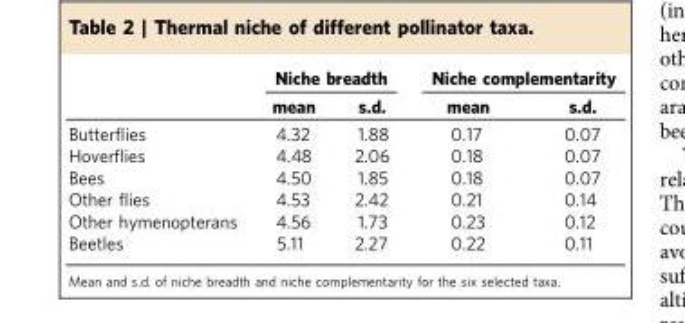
<table><thead><tr><td rowspan="2"></td><td colspan="2">Niche breadth</td><td colspan="2">Niche complementarity</td></tr><tr><td>mean</td><td>s.d.</td><td>mean</td><td>s.d.</td></tr></thead><tbody><tr><td>Butterflies</td><td>4.32</td><td>1.88</td><td>0.17</td><td>0.07</td></tr><tr><td>Hoverflies</td><td>4.48</td><td>2.06</td><td>0.18</td><td>0.07</td></tr><tr><td>Bees</td><td>4.50</td><td>1.85</td><td>0.18</td><td>0.07</td></tr><tr><td>Other flies</td><td>4.53</td><td>2.42</td><td>0.21</td><td>0.14</td></tr><tr><td>Other hymenopterans</td><td>4.56</td><td>1.73</td><td>0.23</td><td>0.12</td></tr><tr><td>Beetles</td><td>5.11</td><td>2.27</td><td>0.22</td><td>0.11</td></tr></tbody></table>